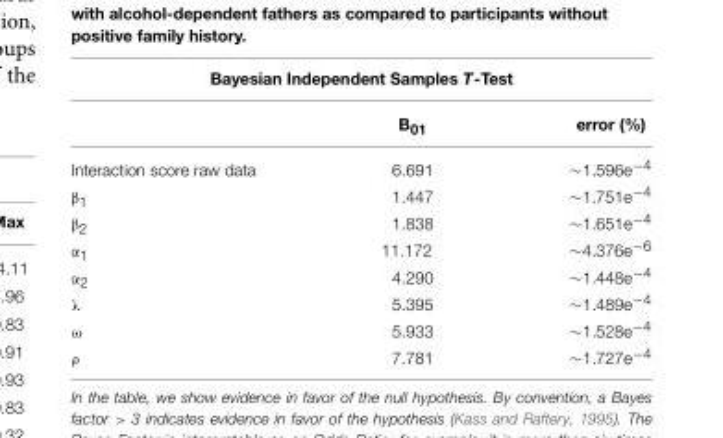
<table><thead><tr><td colspan="3">Bayesian Independent Samples T-Test</td></tr><tr><td></td><td>B<sub>01</sub></td><td>error (%)</td></tr></thead><tbody><tr><td>Interaction score raw data</td><td>6.691</td><td>∼1.596e−4</td></tr><tr><td>β<sub>1</sub></td><td>1.447</td><td>∼1.751e−4</td></tr><tr><td>β<sub>2</sub></td><td>1.838</td><td>∼1.651e−4</td></tr><tr><td>α<sub>1</sub></td><td>11.172</td><td>∼4.376e−6</td></tr><tr><td>α<sub>2</sub></td><td>4.290</td><td>∼1.448e−4</td></tr><tr><td>λ</td><td>5.395</td><td>∼1.489e−4</td></tr><tr><td>ω</td><td>5.933</td><td>∼1.528e−4</td></tr><tr><td>ρ</td><td>7.781</td><td>∼1.727e−4</td></tr></tbody></table>